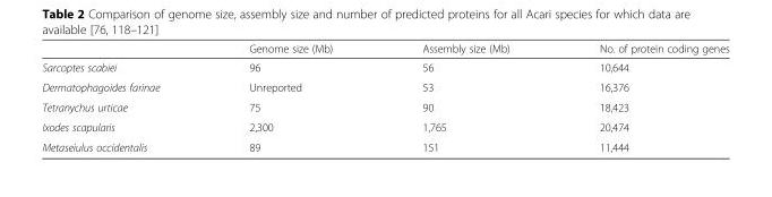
<table><thead><tr><td></td><td>Genome size (Mb)</td><td>Assembly size (Mb)</td><td>No. of protein coding genes</td></tr></thead><tbody><tr><td>Sarcoptes scabiei</td><td>96</td><td>56</td><td>10,644</td></tr><tr><td>Dermatophagoides farinae</td><td>Unreported</td><td>53</td><td>16,376</td></tr><tr><td>Tetranychus urticae</td><td>75</td><td>90</td><td>18,423</td></tr><tr><td>Ixodes scapularis</td><td>2,300</td><td>1,765</td><td>20,474</td></tr><tr><td>Metaseiulus occidentalis</td><td>89</td><td>151</td><td>11,444</td></tr></tbody></table>